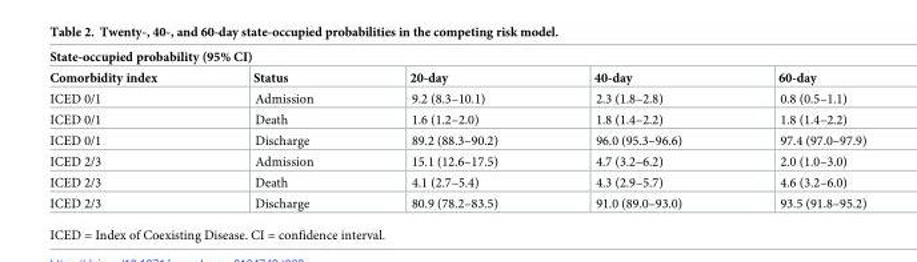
<table><thead><tr><td colspan="5">State-occupied probability (95% CI)</td></tr><tr><td>Comorbidity index</td><td>Status</td><td>20-day</td><td>40-day</td><td>60-day</td></tr></thead><tbody><tr><td>ICED 0/1</td><td>Admission</td><td>9.2 (8.3–10.1)</td><td>2.3 (1.8–2.8)</td><td>0.8 (0.5–1.1)</td></tr><tr><td>ICED 0/1</td><td>Death</td><td>1.6 (1.2–2.0)</td><td>1.8 (1.4–2.2)</td><td>1.8 (1.4–2.2)</td></tr><tr><td>ICED 0/1</td><td>Discharge</td><td>89.2 (88.3–90.2)</td><td>96.0 (95.3–96.6)</td><td>97.4 (97.0–97.9)</td></tr><tr><td>ICED 2/3</td><td>Admission</td><td>15.1 (12.6–17.5)</td><td>4.7 (3.2–6.2)</td><td>2.0 (1.0–3.0)</td></tr><tr><td>ICED 2/3</td><td>Death</td><td>4.1 (2.7–5.4)</td><td>4.3 (2.9–5.7)</td><td>4.6 (3.2–6.0)</td></tr><tr><td>ICED 2/3</td><td>Discharge</td><td>80.9 (78.2–83.5)</td><td>91.0 (89.0–93.0)</td><td>93.5 (91.8–95.2)</td></tr></tbody></table>